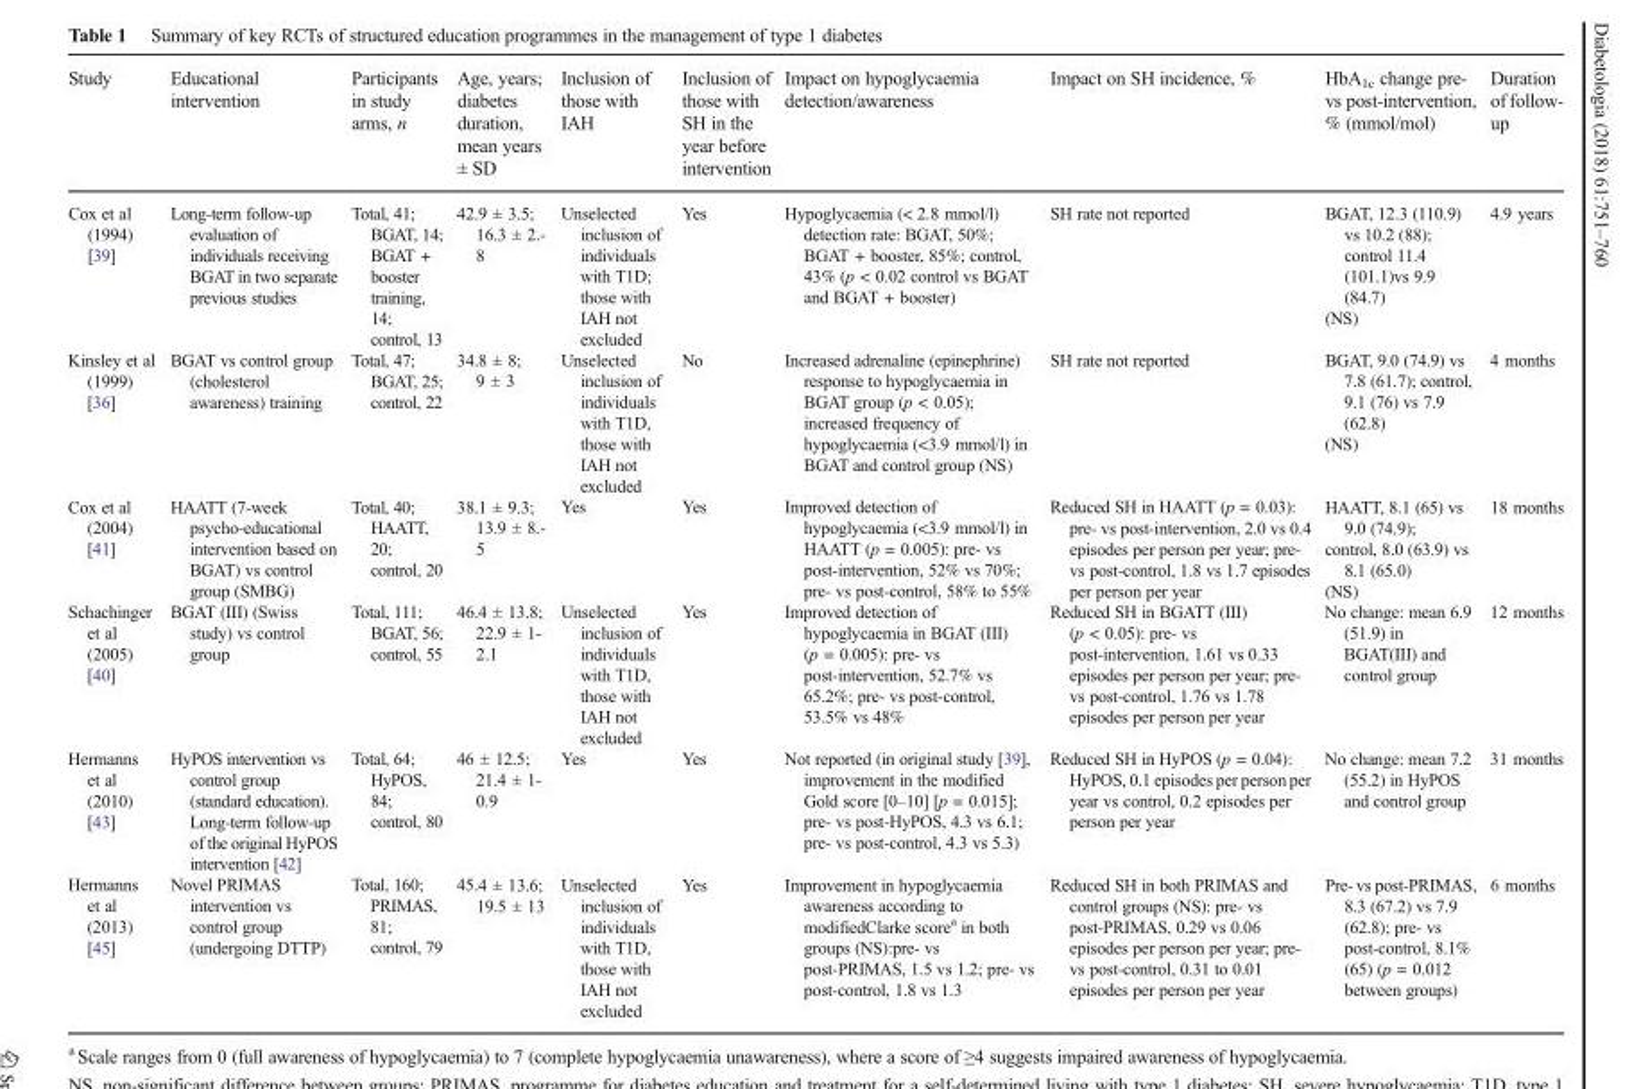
<table><thead><tr><td>Study</td><td>Educational intervention</td><td>Participants in study arms, n</td><td>Age, years; diabetes duration, mean years ± SD</td><td>Inclusion of those with IAH</td><td>Inclusion of those with SH in the year before intervention</td><td>Impact on hypoglycaemia detection/awareness</td><td>Impact on SH incidence, %</td><td>HbA<sub>1c</sub> change pre- vs post-intervention, % (mmol/mol)</td><td>Duration of follow- up</td></tr></thead><tbody><tr><td>Cox et al (1994) [39]</td><td>Long-term follow-up evaluation of individuals receiving BGAT in two separate previous studies</td><td>Total, 41; BGAT, 14; BGAT + booster training, 14; control, 13</td><td>42.9 ± 3.5; 16.3 ± 2.- 8</td><td>Unselected inclusion of individuals with T1D; those with IAH not excluded</td><td>Yes</td><td>Hypoglycaemia (&lt; 2.8 mmol/l) detection rate: BGAT, 50%; BGAT + booster, 85%; control, 43% (p &lt; 0.02 control vs BGAT and BGAT + booster)</td><td>SH rate not reported</td><td>BGAT, 12.3 (110.9) vs 10.2 (88); control 11.4 (101.1)vs 9.9 (84.7) (NS)</td><td>4.9 years</td></tr><tr><td>Kinsley et al (1999) [36]</td><td>BGAT vs control group (cholesterol awareness) training</td><td>Total, 47; BGAT, 25; control, 22</td><td>34.8 ± 8; 9 ± 3</td><td>Unselected inclusion of individuals with T1D, those with IAH not excluded</td><td>No</td><td>Increased adrenaline (epinephrine) response to hypoglycaemia in BGAT group (p &lt; 0.05); increased frequency of hypoglycaemia (&lt;3.9 mmol/l) in BGAT and control group (NS)</td><td>SH rate not reported</td><td>BGAT, 9.0 (74.9) vs 7.8 (61.7); control, 9.1 (76) vs 7.9 (62.8) (NS)</td><td>4 months</td></tr><tr><td>Cox et al (2004) [41]</td><td>HAATT (7-week psycho-educational intervention based on BGAT) vs control group (SMBG)</td><td>Total, 40; HAATT, 20; control, 20</td><td>38.1 ± 9.3; 13.9 ± 8.- 5</td><td>Yes</td><td>Yes</td><td>Improved detection of hypoglycaemia (&lt;3.9 mmol/l) in HAATT (p = 0.005): pre- vs post-intervention, 52% vs 70%; pre- vs post-control, 58% to 55%</td><td>Reduced SH in HAATT (p = 0.03): pre- vs post-intervention, 2.0 vs 0.4 episodes per person per year; pre- vs post-control, 1.8 vs 1.7 episodes per person per year</td><td>HAATT, 8.1 (65) vs 9.0 (74.9); control, 8.0 (63.9) vs 8.1 (65.0) (NS)</td><td>18 months</td></tr><tr><td>Schachinger et al (2005) [40]</td><td>BGAT (III) (Swiss study) vs control group</td><td>Total, 111; BGAT, 56; control, 55</td><td>46.4 ± 13.8; 22.9 ± 1- 2.1</td><td>Unselected inclusion of individuals with T1D, those with IAH not excluded</td><td>Yes</td><td>Improved detection of hypoglycaemia in BGAT (III) (p = 0.005): pre- vs post-intervention, 52.7% vs 65.2%; pre- vs post-control, 53.5% vs 48%</td><td>Reduced SH in BGATT (III) (p &lt; 0.05): pre- vs post-intervention, 1.61 vs 0.33 episodes per person per year; pre- vs post-control, 1.76 vs 1.78 episodes per person per year</td><td>No change: mean 6.9 (51.9) in BGAT(III) and control group</td><td>12 months</td></tr><tr><td>Hermanns et al (2010) [43]</td><td>HyPOS intervention vs control group (standard education). Long-term follow-up of the original HyPOS intervention [42]</td><td>Total, 64; HyPOS, 84; control, 80</td><td>46 ± 12.5; 21.4 ± 1- 0.9</td><td>Yes</td><td>Yes</td><td>Not reported (in original study [39], improvement in the modified Gold score [0–10] [p = 0.015]; pre- vs post-HyPOS, 4.3 vs 6.1; pre- vs post-control, 4.3 vs 5.3)</td><td>Reduced SH in HyPOS (p = 0.04): HyPOS, 0.1 episodes per person per year vs control, 0.2 episodes per person per year</td><td>No change: mean 7.2 (55.2) in HyPOS and control group</td><td>31 months</td></tr><tr><td>Hermanns et al (2013) [45]</td><td>Novel PRIMAS intervention vs control group (undergoing DTTP)</td><td>Total, 160; PRIMAS, 81; control, 79</td><td>45.4 ± 13.6; 19.5 ± 13</td><td>Unselected inclusion of individuals with T1D, those with IAH not excluded</td><td>Yes</td><td>Improvement in hypoglycaemia awareness according to modifiedClarke score<sup>a</sup> in both groups (NS):pre- vs post-PRIMAS, 1.5 vs 1.2; pre- vs post-control, 1.8 vs 1.3</td><td>Reduced SH in both PRIMAS and control groups (NS): pre- vs post-PRIMAS, 0.29 vs 0.06 episodes per person per year; pre- vs post-control, 0.31 to 0.01 episodes per person per year</td><td>Pre- vs post-PRIMAS, 8.3 (67.2) vs 7.9 (62.8); pre- vs post-control, 8.1% (65) (p = 0.012 between groups)</td><td>6 months</td></tr></tbody></table>